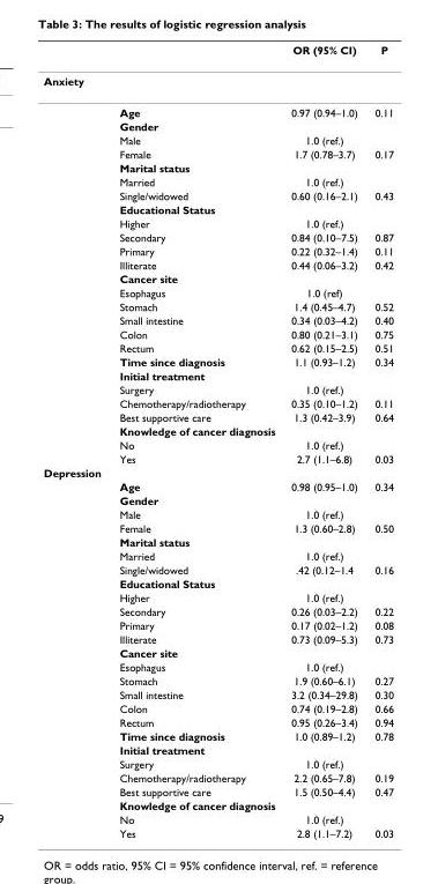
<table><thead><tr><td></td><td></td><td>OR (95% CI)</td><td>P</td></tr></thead><tbody><tr><td colspan="4">Anxiety</td></tr><tr><td></td><td>Age</td><td>0.97 (0.94–1.0)</td><td>0.11</td></tr><tr><td></td><td>Gender</td><td></td><td></td></tr><tr><td></td><td>Male</td><td>1.0 (ref.)</td><td></td></tr><tr><td></td><td>Female</td><td>1.7 (0.78–3.7)</td><td>0.17</td></tr><tr><td></td><td>Marital status</td><td></td><td></td></tr><tr><td></td><td>Married</td><td>1.0 (ref.)</td><td></td></tr><tr><td></td><td>Single/widowed</td><td>0.60 (0.16–2.1)</td><td>0.43</td></tr><tr><td></td><td>Educational Status</td><td></td><td></td></tr><tr><td></td><td>Higher</td><td>1.0 (ref.)</td><td></td></tr><tr><td></td><td>Secondary</td><td>0.84 (0.10–7.5)</td><td>0.87</td></tr><tr><td></td><td>Primary</td><td>0.22 (0.32–1.4)</td><td>0.11</td></tr><tr><td></td><td>Illiterate</td><td>0.44 (0.06–3.2)</td><td>0.42</td></tr><tr><td></td><td>Cancer site</td><td></td><td></td></tr><tr><td></td><td>Esophagus</td><td>1.0 (ref)</td><td></td></tr><tr><td></td><td>Stomach</td><td>1.4 (0.45–4.7)</td><td>0.52</td></tr><tr><td></td><td>Small intestine</td><td>0.34 (0.03–4.2)</td><td>0.40</td></tr><tr><td></td><td>Colon</td><td>0.80 (0.21–3.1)</td><td>0.75</td></tr><tr><td></td><td>Rectum</td><td>0.62 (0.15–2.5)</td><td>0.51</td></tr><tr><td></td><td>Time since diagnosis</td><td>1.1 (0.93–1.2)</td><td>0.34</td></tr><tr><td></td><td>Initial treatment</td><td></td><td></td></tr><tr><td></td><td>Surgery</td><td>1.0 (ref.)</td><td></td></tr><tr><td></td><td>Chemotherapy/radiotherapy</td><td>0.35 (0.10–1.2)</td><td>0.11</td></tr><tr><td></td><td>Best supportive care</td><td>1.3 (0.42–3.9)</td><td>0.64</td></tr><tr><td></td><td>Knowledge of cancer diagnosis</td><td></td><td></td></tr><tr><td></td><td>No</td><td>1.0 (ref.)</td><td></td></tr><tr><td></td><td>Yes</td><td>2.7 (1.1–6.8)</td><td>0.03</td></tr><tr><td colspan="4">Depression</td></tr><tr><td></td><td>Age</td><td>0.98 (0.95–1.0)</td><td>0.34</td></tr><tr><td></td><td>Gender</td><td></td><td></td></tr><tr><td></td><td>Male</td><td>1.0 (ref.)</td><td></td></tr><tr><td></td><td>Female</td><td>1.3 (0.60–2.8)</td><td>0.50</td></tr><tr><td></td><td>Marital status</td><td></td><td></td></tr><tr><td></td><td>Married</td><td>1.0 (ref.)</td><td></td></tr><tr><td></td><td>Single/widowed</td><td>.42 (0.12–1.4</td><td>0.16</td></tr><tr><td></td><td>Educational Status</td><td></td><td></td></tr><tr><td></td><td>Higher</td><td>1.0 (ref.)</td><td></td></tr><tr><td></td><td>Secondary</td><td>0.26 (0.03–2.2)</td><td>0.22</td></tr><tr><td></td><td>Primary</td><td>0.17 (0.02–1.2)</td><td>0.08</td></tr><tr><td></td><td>Illiterate</td><td>0.73 (0.09–5.3)</td><td>0.73</td></tr><tr><td></td><td>Cancer site</td><td></td><td></td></tr><tr><td></td><td>Esophagus</td><td>1.0 (ref.)</td><td></td></tr><tr><td></td><td>Stomach</td><td>1.9 (0.60–6.1)</td><td>0.27</td></tr><tr><td></td><td>Small intestine</td><td>3.2 (0.34–29.8)</td><td>0.30</td></tr><tr><td></td><td>Colon</td><td>0.74 (0.19–2.8)</td><td>0.66</td></tr><tr><td></td><td>Rectum</td><td>0.95 (0.26–3.4)</td><td>0.94</td></tr><tr><td></td><td>Time since diagnosis</td><td>1.0 (0.89–1.2)</td><td>0.78</td></tr><tr><td></td><td>Initial treatment</td><td></td><td></td></tr><tr><td></td><td>Surgery</td><td>1.0 (ref.)</td><td></td></tr><tr><td></td><td>Chemotherapy/radiotherapy</td><td>2.2 (0.65–7.8)</td><td>0.19</td></tr><tr><td></td><td>Best supportive care</td><td>1.5 (0.50–4.4)</td><td>0.47</td></tr><tr><td></td><td>Knowledge of cancer diagnosis</td><td></td><td></td></tr><tr><td></td><td>No</td><td>1.0 (ref.)</td><td></td></tr><tr><td></td><td>Yes</td><td>2.8 (1.1–7.2)</td><td>0.03</td></tr></tbody></table>